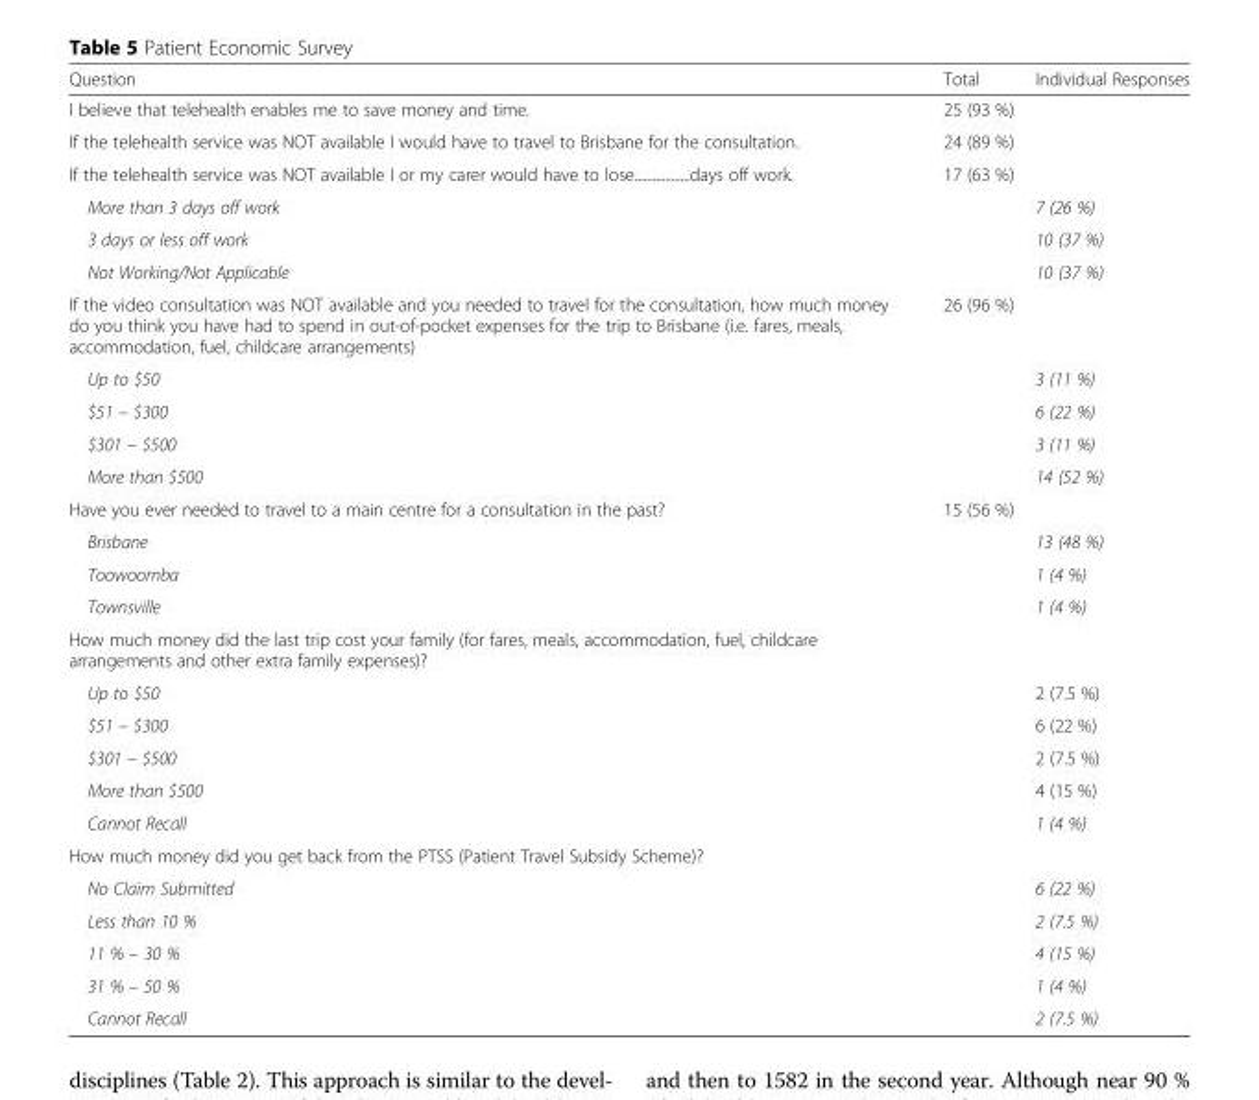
<table><thead><tr><td>Question</td><td>Total</td><td>Individual Responses</td></tr></thead><tbody><tr><td>I believe that telehealth enables me to save money and time.</td><td colspan="2">25 (93 %)</td></tr><tr><td>If the telehealth service was NOT available I would have to travel to Brisbane for the consultation.</td><td colspan="2">24 (89 %)</td></tr><tr><td>If the telehealth service was NOT available I or my carer would have to lose..................days off work.</td><td colspan="2">17 (63 %)</td></tr><tr><td>More than 3 days off work</td><td></td><td>7 (26 %)</td></tr><tr><td>3 days or less off work</td><td></td><td>10 (37 %)</td></tr><tr><td>Not Working/Not Applicable</td><td></td><td>10 (37 %)</td></tr><tr><td>If the video consultation was NOT available and you needed to travel for the consultation, how much money do you think you have had to spend in out-of-pocket expenses for the trip to Brisbane (i.e. fares, meals, accommodation, fuel, childcare arrangements)</td><td colspan="2">26 (96 %)</td></tr><tr><td>Up to $50</td><td></td><td>3 (11 %)</td></tr><tr><td>$51 – $300</td><td></td><td>6 (22 %)</td></tr><tr><td>$301 – $500</td><td></td><td>3 (11 %)</td></tr><tr><td>More than $500</td><td></td><td>14 (52 %)</td></tr><tr><td>Have you ever needed to travel to a main centre for a consultation in the past?</td><td colspan="2">15 (56 %)</td></tr><tr><td>Brisbane</td><td></td><td>13 (48 %)</td></tr><tr><td>Toowoomba</td><td></td><td>1 (4 %)</td></tr><tr><td>Townsville</td><td></td><td>1 (4 %)</td></tr><tr><td colspan="3">How much money did the last trip cost your family (for fares, meals, accommodation, fuel, childcare arrangements and other extra family expenses)?</td></tr><tr><td>Up to $50</td><td></td><td>2 (7.5 %)</td></tr><tr><td>$51 – $300</td><td></td><td>6 (22 %)</td></tr><tr><td>$301 – $500</td><td></td><td>2 (7.5 %)</td></tr><tr><td>More than $500</td><td></td><td>4 (15 %)</td></tr><tr><td>Cannot Recall</td><td></td><td>1 (4 %)</td></tr><tr><td colspan="3">How much money did you get back from the PTSS (Patient Travel Subsidy Scheme)?</td></tr><tr><td>No Claim Submitted</td><td></td><td>6 (22 %)</td></tr><tr><td>Less than 10 %</td><td></td><td>2 (7.5 %)</td></tr><tr><td>11 % – 30 %</td><td></td><td>4 (15 %)</td></tr><tr><td>31 % – 50 %</td><td></td><td>1 (4 %)</td></tr><tr><td>Cannot Recall</td><td></td><td>2 (7.5 %)</td></tr></tbody></table>